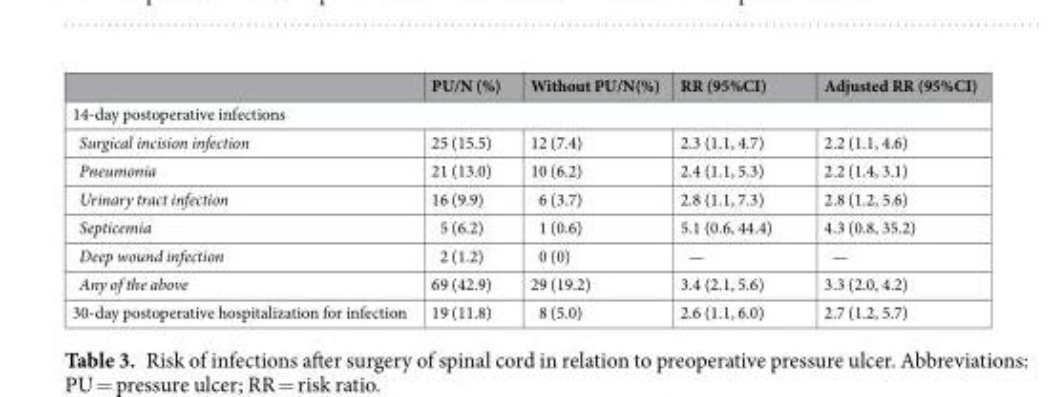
<table><thead><tr><td></td><td>PU/N (%)</td><td>Without PU/N(%)</td><td>RR (95%CI)</td><td>Adjusted RR (95%CI)</td></tr></thead><tbody><tr><td colspan="5">14-day postoperative infections</td></tr><tr><td>Surgical incision infection</td><td>25 (15.5)</td><td>12 (7.4)</td><td>2.3 (1.1, 4.7)</td><td>2.2 (1.1, 4.6)</td></tr><tr><td>Pneumonia</td><td>21 (13.0)</td><td>10 (6.2)</td><td>2.4 (1.1, 5.3)</td><td>2.2 (1.4, 3.1)</td></tr><tr><td>Urinary tract infection</td><td>16 (9.9)</td><td>6 (3.7)</td><td>2.8 (1.1, 7.3)</td><td>2.8 (1.2, 5.6)</td></tr><tr><td>Septicemia</td><td>5 (6.2)</td><td>1 (0.6)</td><td>5.1 (0.6, 44.4)</td><td>4.3 (0.8, 35.2)</td></tr><tr><td>Deep wound infection</td><td>2 (1.2)</td><td>0 (0)</td><td>—</td><td>—</td></tr><tr><td>Any of the above</td><td>69 (42.9)</td><td>29 (19.2)</td><td>3.4 (2.1, 5.6)</td><td>3.3 (2.0, 4.2)</td></tr><tr><td>30-day postoperative hospitalization for infection</td><td>19 (11.8)</td><td>8 (5.0)</td><td>2.6 (1.1, 6.0)</td><td>2.7 (1.2, 5.7)</td></tr></tbody></table>